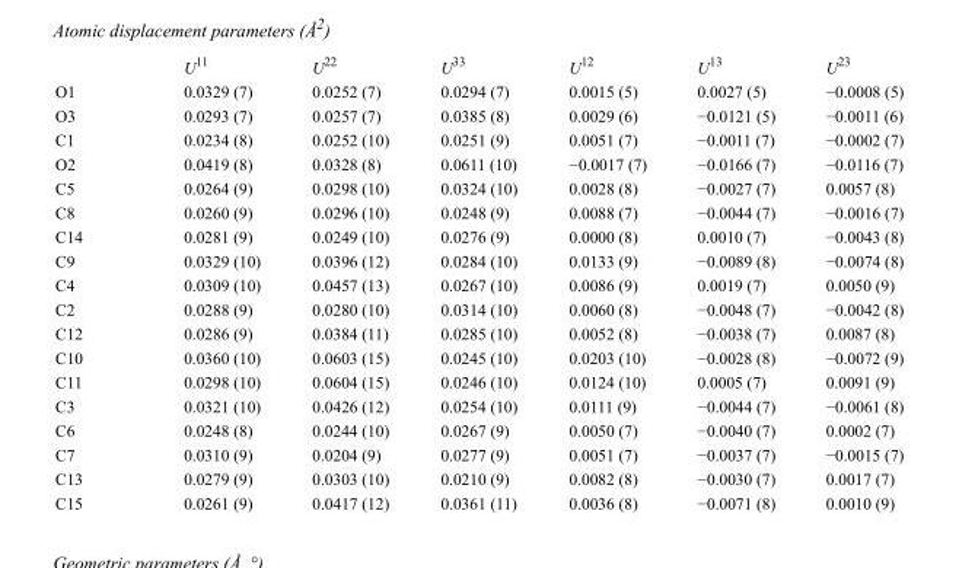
<table><thead><tr><td></td><td>U<sup>11</sup></td><td>U<sup>22</sup></td><td>U<sup>33</sup></td><td>U<sup>12</sup></td><td>U<sup>13</sup></td><td>U<sup>23</sup></td></tr></thead><tbody><tr><td>O1</td><td>0.0329 (7)</td><td>0.0252 (7)</td><td>0.0294 (7)</td><td>0.0015 (5)</td><td>0.0027 (5)</td><td>−0.0008 (5)</td></tr><tr><td>O3</td><td>0.0293 (7)</td><td>0.0257 (7)</td><td>0.0385 (8)</td><td>0.0029 (6)</td><td>−0.0121 (5)</td><td>−0.0011 (6)</td></tr><tr><td>C1</td><td>0.0234 (8)</td><td>0.0252 (10)</td><td>0.0251 (9)</td><td>0.0051 (7)</td><td>−0.0011 (7)</td><td>−0.0002 (7)</td></tr><tr><td>O2</td><td>0.0419 (8)</td><td>0.0328 (8)</td><td>0.0611 (10)</td><td>−0.0017 (7)</td><td>−0.0166 (7)</td><td>−0.0116 (7)</td></tr><tr><td>C5</td><td>0.0264 (9)</td><td>0.0298 (10)</td><td>0.0324 (10)</td><td>0.0028 (8)</td><td>−0.0027 (7)</td><td>0.0057 (8)</td></tr><tr><td>C8</td><td>0.0260 (9)</td><td>0.0296 (10)</td><td>0.0248 (9)</td><td>0.0088 (7)</td><td>−0.0044 (7)</td><td>−0.0016 (7)</td></tr><tr><td>C14</td><td>0.0281 (9)</td><td>0.0249 (10)</td><td>0.0276 (9)</td><td>0.0000 (8)</td><td>0.0010 (7)</td><td>−0.0043 (8)</td></tr><tr><td>C9</td><td>0.0329 (10)</td><td>0.0396 (12)</td><td>0.0284 (10)</td><td>0.0133 (9)</td><td>−0.0089 (8)</td><td>−0.0074 (8)</td></tr><tr><td>C4</td><td>0.0309 (10)</td><td>0.0457 (13)</td><td>0.0267 (10)</td><td>0.0086 (9)</td><td>0.0019 (7)</td><td>0.0050 (9)</td></tr><tr><td>C2</td><td>0.0288 (9)</td><td>0.0280 (10)</td><td>0.0314 (10)</td><td>0.0060 (8)</td><td>−0.0048 (7)</td><td>−0.0042 (8)</td></tr><tr><td>C12</td><td>0.0286 (9)</td><td>0.0384 (11)</td><td>0.0285 (10)</td><td>0.0052 (8)</td><td>−0.0038 (7)</td><td>0.0087 (8)</td></tr><tr><td>C10</td><td>0.0360 (10)</td><td>0.0603 (15)</td><td>0.0245 (10)</td><td>0.0203 (10)</td><td>−0.0028 (8)</td><td>−0.0072 (9)</td></tr><tr><td>C11</td><td>0.0298 (10)</td><td>0.0604 (15)</td><td>0.0246 (10)</td><td>0.0124 (10)</td><td>0.0005 (7)</td><td>0.0091 (9)</td></tr><tr><td>C3</td><td>0.0321 (10)</td><td>0.0426 (12)</td><td>0.0254 (10)</td><td>0.0111 (9)</td><td>−0.0044 (7)</td><td>−0.0061 (8)</td></tr><tr><td>C6</td><td>0.0248 (8)</td><td>0.0244 (10)</td><td>0.0267 (9)</td><td>0.0050 (7)</td><td>−0.0040 (7)</td><td>0.0002 (7)</td></tr><tr><td>C7</td><td>0.0310 (9)</td><td>0.0204 (9)</td><td>0.0277 (9)</td><td>0.0051 (7)</td><td>−0.0037 (7)</td><td>−0.0015 (7)</td></tr><tr><td>C13</td><td>0.0279 (9)</td><td>0.0303 (10)</td><td>0.0210 (9)</td><td>0.0082 (8)</td><td>−0.0030 (7)</td><td>0.0017 (7)</td></tr><tr><td>C15</td><td>0.0261 (9)</td><td>0.0417 (12)</td><td>0.0361 (11)</td><td>0.0036 (8)</td><td>−0.0071 (8)</td><td>0.0010 (9)</td></tr></tbody></table>